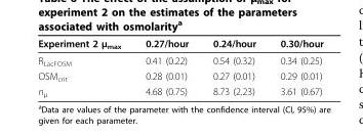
<table><thead><tr><td>Experiment 2 μ<sub>max</sub></td><td>0.27/hour</td><td>0.24/hour</td><td>0.30/hour</td></tr></thead><tbody><tr><td>R<sub>LacFOSM</sub></td><td>0.41 (0.22)</td><td>0.54 (0.32)</td><td>0.34 (0.25)</td></tr><tr><td>OSM<sub>crit</sub></td><td>0.28 (0.01)</td><td>0.27 (0.01)</td><td>0.29 (0.01)</td></tr><tr><td>n<sub>μ</sub></td><td>4.68 (0.75)</td><td>8.73 (2.23)</td><td>3.61 (0.67)</td></tr></tbody></table>